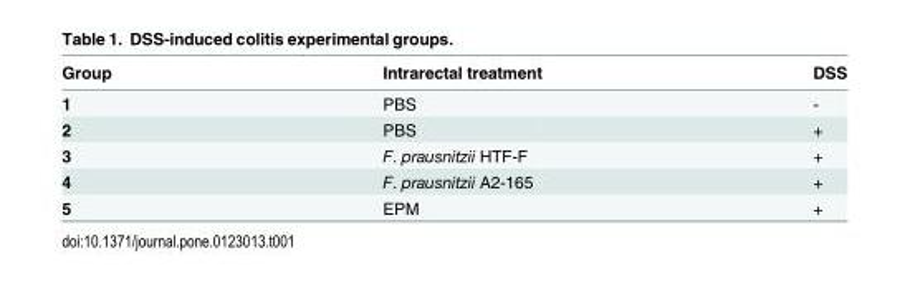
<table><thead><tr><td>Group</td><td>Intrarectal treatment</td><td>DSS</td></tr></thead><tbody><tr><td>1</td><td>PBS</td><td>-</td></tr><tr><td>2</td><td>PBS</td><td>+</td></tr><tr><td>3</td><td>F. prausnitzii HTF-F</td><td>+</td></tr><tr><td>4</td><td>F. prausnitzii A2-165</td><td>+</td></tr><tr><td>5</td><td>EPM</td><td>+</td></tr></tbody></table>